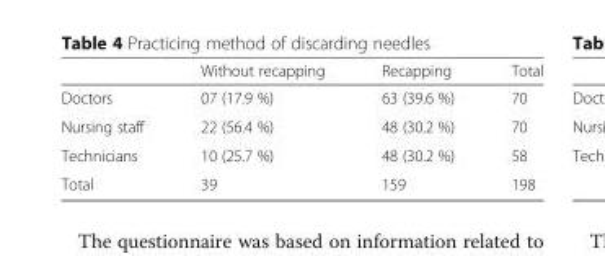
<table><thead><tr><td></td><td>Without recapping</td><td>Recapping</td><td>Total</td></tr></thead><tbody><tr><td>Doctors</td><td>07 (17.9 %)</td><td>63 (39.6 %)</td><td>70</td></tr><tr><td>Nursing staff</td><td>22 (56.4 %)</td><td>48 (30.2 %)</td><td>70</td></tr><tr><td>Technicians</td><td>10 (25.7 %)</td><td>48 (30.2 %)</td><td>58</td></tr><tr><td>Total</td><td>39</td><td>159</td><td>198</td></tr></tbody></table>